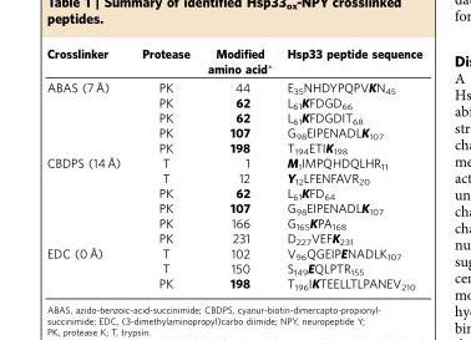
<table><thead><tr><td>Crosslinker</td><td>Protease</td><td>Modified amino acid*</td><td>Hsp33 peptide sequence</td></tr></thead><tbody><tr><td rowspan="5">ABAS (7 Å)</td><td>PK</td><td>44</td><td>E<sub>35</sub>NHDYPQPVKN<sub>45</sub></td></tr><tr><td>PK</td><td>62</td><td>L<sub>61</sub>KFDGD<sub>66</sub></td></tr><tr><td>PK</td><td>62</td><td>L<sub>61</sub>KFDGDIT<sub>68</sub></td></tr><tr><td>PK</td><td>107</td><td>G<sub>98</sub>EIPENADLK<sub>107</sub></td></tr><tr><td>PK</td><td>198</td><td>T<sub>194</sub>ETIK<sub>198</sub></td></tr><tr><td rowspan="6">CBDPS (14 Å)</td><td>T</td><td>1</td><td>M<sub>1</sub>IMPQHDQLHR<sub>11</sub></td></tr><tr><td>T</td><td>12</td><td>Y<sub>12</sub>LFENFAVR<sub>20</sub></td></tr><tr><td>PK</td><td>62</td><td>L<sub>61</sub>KFD<sub>64</sub></td></tr><tr><td>PK</td><td>107</td><td>G<sub>98</sub>EIPENADLK<sub>107</sub></td></tr><tr><td>PK</td><td>166</td><td>G<sub>165</sub>KPA<sub>168</sub></td></tr><tr><td>PK</td><td>231</td><td>D<sub>227</sub>VEFK<sub>231</sub></td></tr><tr><td rowspan="3">EDC (0 Å)</td><td>T</td><td>102</td><td>V<sub>96</sub>QGEIPENADLK<sub>107</sub></td></tr><tr><td>T</td><td>150</td><td>S<sub>149</sub>EQLPTR<sub>155</sub></td></tr><tr><td>PK</td><td>198</td><td>T<sub>196</sub>IKTEELLTLPANEV<sub>210</sub></td></tr></tbody></table>